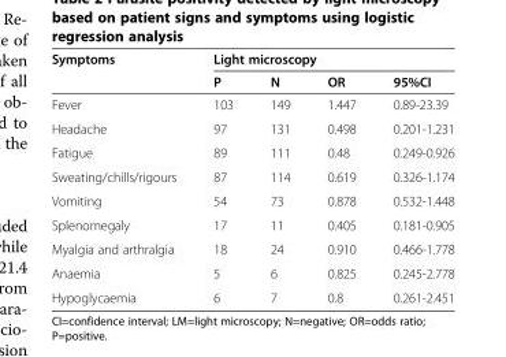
<table><thead><tr><td rowspan="2">Symptoms</td><td colspan="4">Light microscopy</td></tr><tr><td>P</td><td>N</td><td>OR</td><td>95%CI</td></tr></thead><tbody><tr><td>Fever</td><td>103</td><td>149</td><td>1.447</td><td>0.89-23.39</td></tr><tr><td>Headache</td><td>97</td><td>131</td><td>0.498</td><td>0.201-1.231</td></tr><tr><td>Fatigue</td><td>89</td><td>111</td><td>0.48</td><td>0.249-0.926</td></tr><tr><td>Sweating/chills/rigours</td><td>87</td><td>114</td><td>0.619</td><td>0.326-1.174</td></tr><tr><td>Vomiting</td><td>54</td><td>73</td><td>0.878</td><td>0.532-1.448</td></tr><tr><td>Splenomegaly</td><td>17</td><td>11</td><td>0.405</td><td>0.181-0.905</td></tr><tr><td>Myalgia and arthralgia</td><td>18</td><td>24</td><td>0.910</td><td>0.466-1.778</td></tr><tr><td>Anaemia</td><td>5</td><td>6</td><td>0.825</td><td>0.245-2.778</td></tr><tr><td>Hypoglycaemia</td><td>6</td><td>7</td><td>0.8</td><td>0.261-2.451</td></tr></tbody></table>